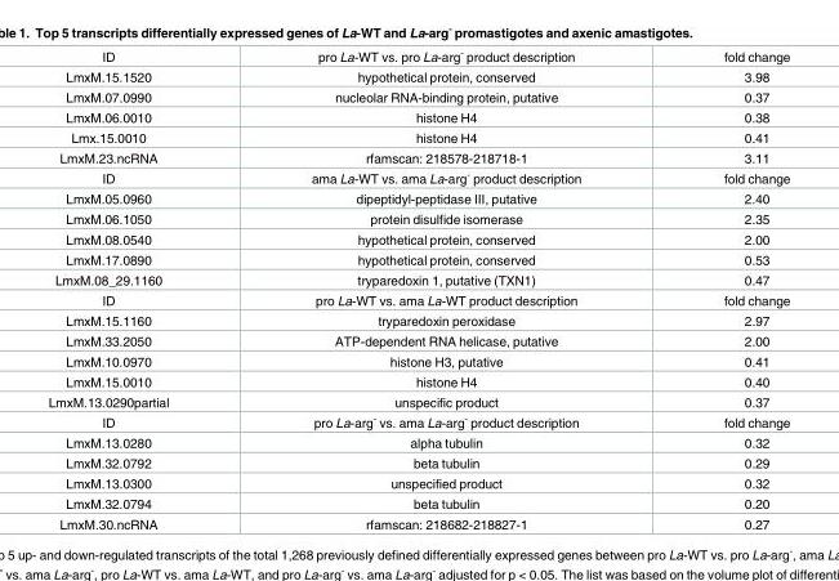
<table><tbody><tr><td>ID</td><td>pro La-WT vs. pro La-arg<sup>-</sup> product description</td><td>fold change</td></tr><tr><td>LmxM.15.1520</td><td>hypothetical protein, conserved</td><td>3.98</td></tr><tr><td>LmxM.07.0990</td><td>nucleolar RNA-binding protein, putative</td><td>0.37</td></tr><tr><td>LmxM.06.0010</td><td>histone H4</td><td>0.38</td></tr><tr><td>Lmx.15.0010</td><td>histone H4</td><td>0.41</td></tr><tr><td>LmxM.23.ncRNA</td><td>rfamscan: 218578-218718-1</td><td>3.11</td></tr><tr><td>ID</td><td>ama La-WT vs. ama La-arg<sup>-</sup> product description</td><td>fold change</td></tr><tr><td>LmxM.05.0960</td><td>dipeptidyl-peptidase III, putative</td><td>2.40</td></tr><tr><td>LmxM.06.1050</td><td>protein disulfide isomerase</td><td>2.35</td></tr><tr><td>LmxM.08.0540</td><td>hypothetical protein, conserved</td><td>2.00</td></tr><tr><td>LmxM.17.0890</td><td>hypothetical protein, conserved</td><td>0.53</td></tr><tr><td>LmxM.08_29.1160</td><td>tryparedoxin 1, putative (TXN1)</td><td>0.47</td></tr><tr><td>ID</td><td>pro La-WT vs. ama La-WT product description</td><td>fold change</td></tr><tr><td>LmxM.15.1160</td><td>tryparedoxin peroxidase</td><td>2.97</td></tr><tr><td>LmxM.33.2050</td><td>ATP-dependent RNA helicase, putative</td><td>2.00</td></tr><tr><td>LmxM.10.0970</td><td>histone H3, putative</td><td>0.41</td></tr><tr><td>LmxM.15.0010</td><td>histone H4</td><td>0.40</td></tr><tr><td>LmxM.13.0290partial</td><td>unspecific product</td><td>0.37</td></tr><tr><td>ID</td><td>pro La-arg<sup>-</sup> vs. ama La-arg<sup>-</sup> product description</td><td>fold change</td></tr><tr><td>LmxM.13.0280</td><td>alpha tubulin</td><td>0.32</td></tr><tr><td>LmxM.32.0792</td><td>beta tubulin</td><td>0.29</td></tr><tr><td>LmxM.13.0300</td><td>unspecified product</td><td>0.32</td></tr><tr><td>LmxM.32.0794</td><td>beta tubulin</td><td>0.20</td></tr><tr><td>LmxM.30.ncRNA</td><td>rfamscan: 218682-218827-1</td><td>0.27</td></tr></tbody></table>